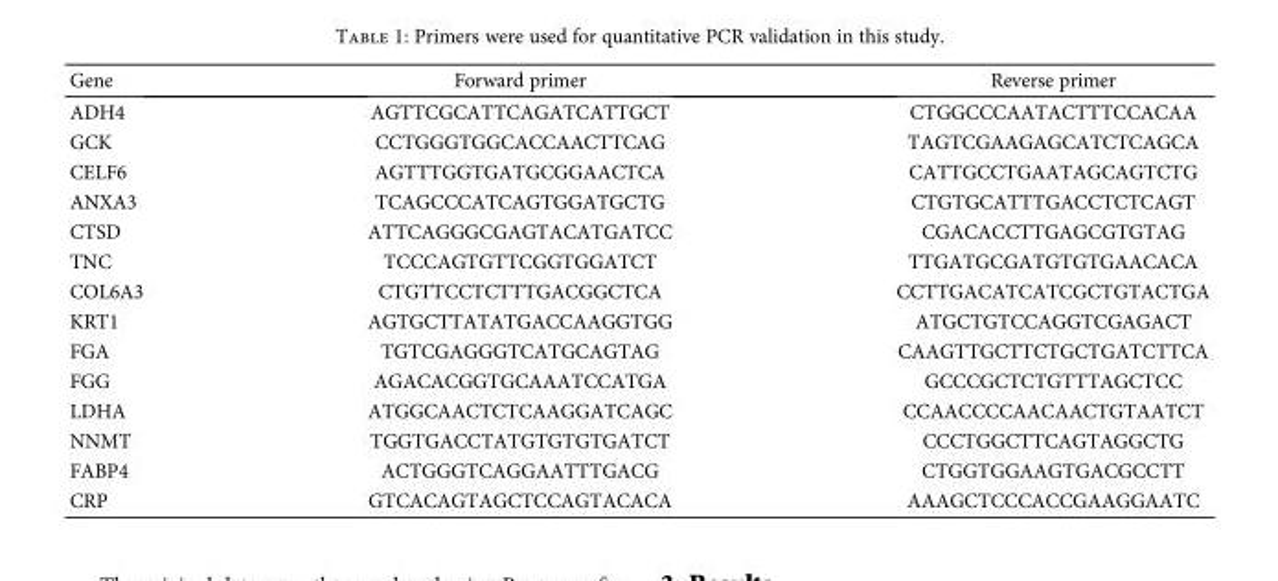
<table><thead><tr><td>Gene</td><td>Forward primer</td><td>Reverse primer</td></tr></thead><tbody><tr><td>ADH4</td><td>AGTTCGCATTCAGATCATTGCT</td><td>CTGGCCCAATACTTTCCACAA</td></tr><tr><td>GCK</td><td>CCTGGGTGGCACCAACTTCAG</td><td>TAGTCGAAGAGCATCTCAGCA</td></tr><tr><td>CELF6</td><td>AGTTTGGTGATGCGGAACTCA</td><td>CATTGCCTGAATAGCAGTCTG</td></tr><tr><td>ANXA3</td><td>TCAGCCCATCAGTGGATGCTG</td><td>CTGTGCATTTGACCTCTCAGT</td></tr><tr><td>CTSD</td><td>ATTCAGGGCGAGTACATGATCC</td><td>CGACACCTTGAGCGTGTAG</td></tr><tr><td>TNC</td><td>TCCCAGTGTTCGGTGGATCT</td><td>TTGATGCGATGTGTGAACACA</td></tr><tr><td>COL6A3</td><td>CTGTTCCTCTTTGACGGCTCA</td><td>CCTTGACATCATCGCTGTACTGA</td></tr><tr><td>KRT1</td><td>AGTGCTTATATGACCAAGGTGG</td><td>ATGCTGTCCAGGTCGAGACT</td></tr><tr><td>FGA</td><td>TGTCGAGGGTCATGCAGTAG</td><td>CAAGTTGCTTCTGCTGATCTTCA</td></tr><tr><td>FGG</td><td>AGACACGGTGCAAATCCATGA</td><td>GCCCGCTCTGTTTAGCTCC</td></tr><tr><td>LDHA</td><td>ATGGCAACTCTCAAGGATCAGC</td><td>CCAACCCCAACAACTGTAATCT</td></tr><tr><td>NNMT</td><td>TGGTGACCTATGTGTGTGATCT</td><td>CCCTGGCTTCAGTAGGCTG</td></tr><tr><td>FABP4</td><td>ACTGGGTCAGGAATTTGACG</td><td>CTGGTGGAAGTGACGCCTT</td></tr><tr><td>CRP</td><td>GTCACAGTAGCTCCAGTACACA</td><td>AAAGCTCCCACCGAAGGAATC</td></tr></tbody></table>